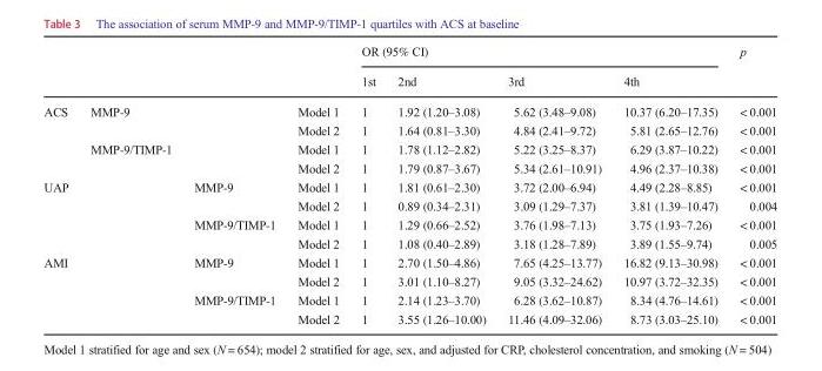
<table><thead><tr><td rowspan="2"></td><td rowspan="2"></td><td rowspan="2"></td><td rowspan="2"></td><td colspan="4">OR (95% CI)</td><td rowspan="2">p</td></tr><tr><td>1st</td><td>2nd</td><td>3rd</td><td>4th</td></tr></thead><tbody><tr><td rowspan="4">ACS</td><td rowspan="2">MMP-9</td><td rowspan="4"></td><td>Model 1</td><td>1</td><td>1.92 (1.20–3.08)</td><td>5.62 (3.48–9.08)</td><td>10.37 (6.20–17.35)</td><td>&lt; 0.001</td></tr><tr><td>Model 2</td><td>1</td><td>1.64 (0.81–3.30)</td><td>4.84 (2.41–9.72)</td><td>5.81 (2.65–12.76)</td><td>&lt; 0.001</td></tr><tr><td rowspan="2">MMP-9/TIMP-1</td><td>Model 1</td><td>1</td><td>1.78 (1.12–2.82)</td><td>5.22 (3.25–8.37)</td><td>6.29 (3.87–10.22)</td><td>&lt; 0.001</td></tr><tr><td>Model 2</td><td>1</td><td>1.79 (0.87–3.67)</td><td>5.34 (2.61–10.91)</td><td>4.96 (2.37–10.38)</td><td>&lt; 0.001</td></tr><tr><td rowspan="4">UAP</td><td rowspan="4"></td><td rowspan="2">MMP-9</td><td>Model 1</td><td>1</td><td>1.81 (0.61–2.30)</td><td>3.72 (2.00–6.94)</td><td>4.49 (2.28–8.85)</td><td>&lt; 0.001</td></tr><tr><td>Model 2</td><td>1</td><td>0.89 (0.34–2.31)</td><td>3.09 (1.29–7.37)</td><td>3.81 (1.39–10.47)</td><td>0.004</td></tr><tr><td rowspan="2">MMP-9/TIMP-1</td><td>Model 1</td><td>1</td><td>1.29 (0.66–2.52)</td><td>3.76 (1.98–7.13)</td><td>3.75 (1.93–7.26)</td><td>&lt; 0.001</td></tr><tr><td>Model 2</td><td>1</td><td>1.08 (0.40–2.89)</td><td>3.18 (1.28–7.89)</td><td>3.89 (1.55–9.74)</td><td>0.005</td></tr><tr><td rowspan="4">AMI</td><td rowspan="4"></td><td rowspan="2">MMP-9</td><td>Model 1</td><td>1</td><td>2.70 (1.50–4.86)</td><td>7.65 (4.25–13.77)</td><td>16.82 (9.13–30.98)</td><td>&lt; 0.001</td></tr><tr><td>Model 2</td><td>1</td><td>3.01 (1.10–8.27)</td><td>9.05 (3.32–24.62)</td><td>10.97 (3.72–32.35)</td><td>&lt; 0.001</td></tr><tr><td rowspan="2">MMP-9/TIMP-1</td><td>Model 1</td><td>1</td><td>2.14 (1.23–3.70)</td><td>6.28 (3.62–10.87)</td><td>8.34 (4.76–14.61)</td><td>&lt; 0.001</td></tr><tr><td>Model 2</td><td>1</td><td>3.55 (1.26–10.00)</td><td>11.46 (4.09–32.06)</td><td>8.73 (3.03–25.10)</td><td>&lt; 0.001</td></tr></tbody></table>